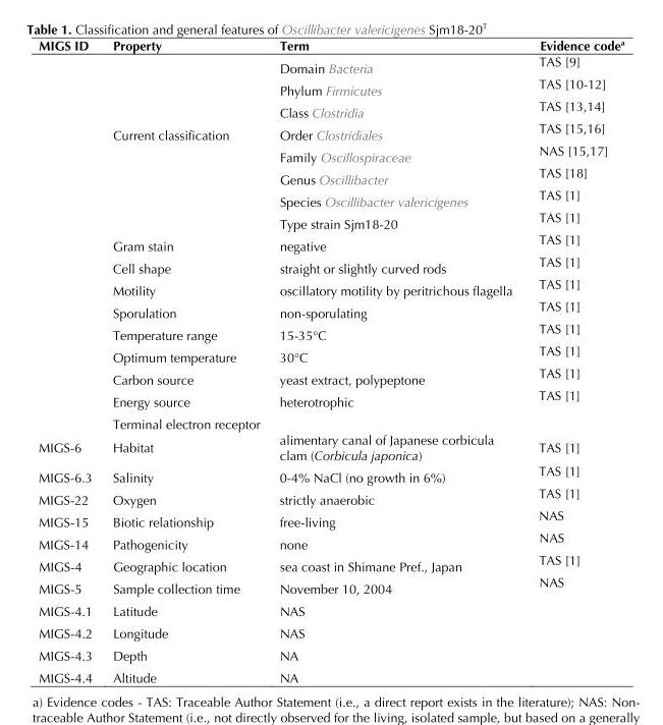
<table><thead><tr><td>MIGS ID</td><td>Property</td><td>Term</td><td>Evidence code<sup>a</sup></td></tr></thead><tbody><tr><td></td><td></td><td>Domain Bacteria</td><td>TAS [9]</td></tr><tr><td></td><td></td><td>Phylum Firmicutes</td><td>TAS [10-12]</td></tr><tr><td></td><td></td><td>Class Clostridia</td><td>TAS [13,14]</td></tr><tr><td></td><td>Current classification</td><td>Order Clostridiales</td><td>TAS [15,16]</td></tr><tr><td></td><td></td><td>Family Oscillospiraceae</td><td>NAS [15,17]</td></tr><tr><td></td><td></td><td>Genus Oscillibacter</td><td>TAS [18]</td></tr><tr><td></td><td></td><td>Species Oscillibacter valericigenes</td><td>TAS [1]</td></tr><tr><td></td><td></td><td>Type strain Sjm18-20</td><td>TAS [1]</td></tr><tr><td></td><td>Gram stain</td><td>negative</td><td>TAS [1]</td></tr><tr><td></td><td>Cell shape</td><td>straight or slightly curved rods</td><td>TAS [1]</td></tr><tr><td></td><td>Motility</td><td>oscillatory motility by peritrichous flagella</td><td>TAS [1]</td></tr><tr><td></td><td>Sporulation</td><td>non-sporulating</td><td>TAS [1]</td></tr><tr><td></td><td>Temperature range</td><td>15-35°C</td><td>TAS [1]</td></tr><tr><td></td><td>Optimum temperature</td><td>30°C</td><td>TAS [1]</td></tr><tr><td></td><td>Carbon source</td><td>yeast extract, polypeptone</td><td>TAS [1]</td></tr><tr><td></td><td>Energy source</td><td>heterotrophic</td><td>TAS [1]</td></tr><tr><td></td><td>Terminal electron receptor</td><td></td><td></td></tr><tr><td>MIGS-6</td><td>Habitat</td><td>alimentary canal of Japanese corbicula clam (Corbicula japonica)</td><td>TAS [1]</td></tr><tr><td>MIGS-6.3</td><td>Salinity</td><td>0-4% NaCl (no growth in 6%)</td><td>TAS [1]</td></tr><tr><td>MIGS-22</td><td>Oxygen</td><td>strictly anaerobic</td><td>TAS [1]</td></tr><tr><td>MIGS-15</td><td>Biotic relationship</td><td>free-living</td><td>NAS</td></tr><tr><td>MIGS-14</td><td>Pathogenicity</td><td>none</td><td>NAS</td></tr><tr><td>MIGS-4</td><td>Geographic location</td><td>sea coast in Shimane Pref., Japan</td><td>TAS [1]</td></tr><tr><td>MIGS-5</td><td>Sample collection time</td><td>November 10, 2004</td><td>NAS</td></tr><tr><td>MIGS-4.1</td><td>Latitude</td><td>NAS</td><td></td></tr><tr><td>MIGS-4.2</td><td>Longitude</td><td>NAS</td><td></td></tr><tr><td>MIGS-4.3</td><td>Depth</td><td>NA</td><td></td></tr><tr><td>MIGS-4.4</td><td>Altitude</td><td>NA</td><td></td></tr></tbody></table>